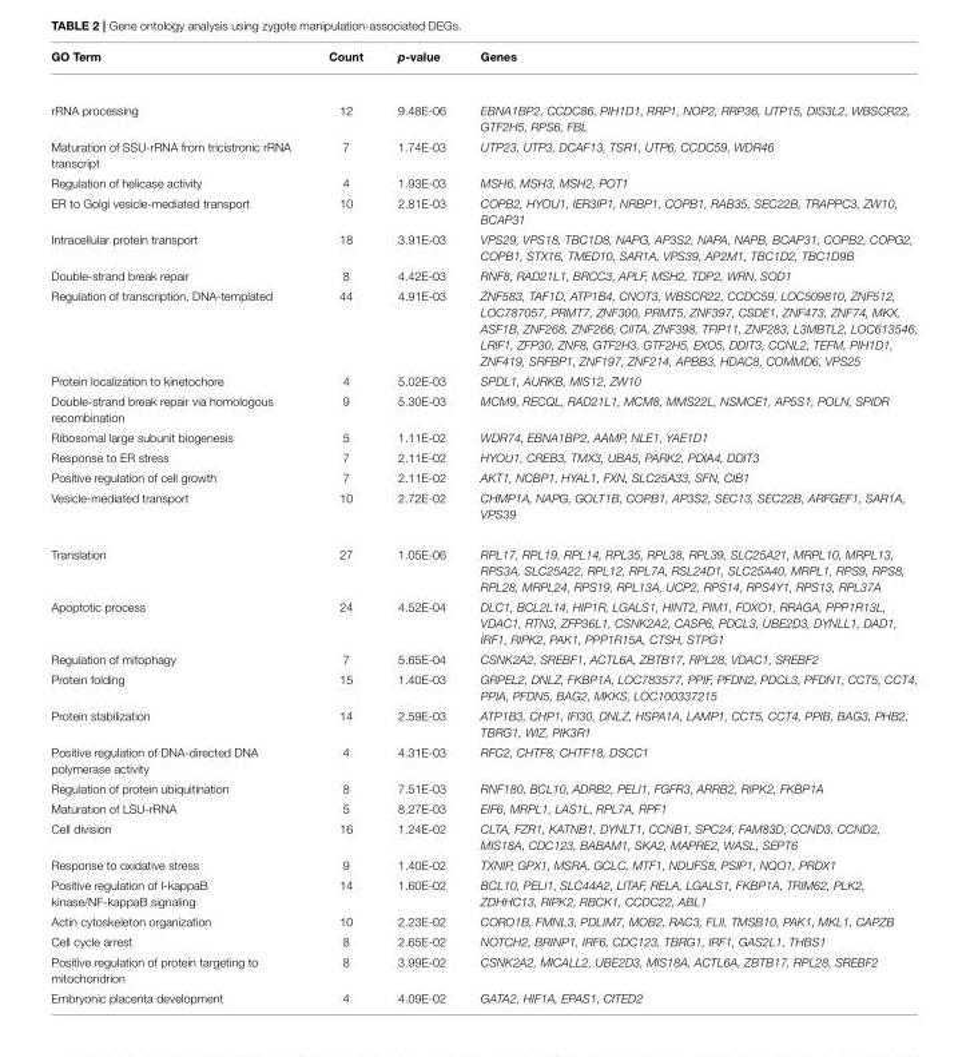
<table><thead><tr><td>GO Term</td><td>Count</td><td>p-value</td><td>Genes</td></tr></thead><tbody><tr><td>rRNA processing</td><td>12</td><td>9.48E-06</td><td>EBNA1BP2, CCDC86, PIH1D1, RRP1, NOP2, RRP36, UTP15, DIS3L2, WBSCR22, GTF2H5, RPS6, FBL</td></tr><tr><td>Maturation of SSU-rRNA from tricistronic rRNA transcript</td><td>7</td><td>1.74E-03</td><td>UTP23, UTP3, DCAF13, TSR1, UTP6, CCDC59, WDR46</td></tr><tr><td>Regulation of helicase activity</td><td>4</td><td>1.93E-03</td><td>MSH6, MSH3, MSH2, POT1</td></tr><tr><td>ER to Golgi vesicle-mediated transport</td><td>10</td><td>2.81E-03</td><td>COPB2, HYOU1, IER3IP1, NRBP1, COPB1, RAB35, SEC22B, TRAPPC3, ZW10, BCAP31</td></tr><tr><td>Intracellular protein transport</td><td>18</td><td>3.91E-03</td><td>VPS29, VPS18, TBC1D8, NAPG, AP3S2, NAPA, NAPB, BCAP31, COPB2, COPG2, COPB1, STX16, TMED10, SAR1A, VPS39, AP2M1, TBC1D2, TBC1D9B</td></tr><tr><td>Double-strand break repair</td><td>8</td><td>4.42E-03</td><td>RNF8, RAD21L1, BRCC3, APLF, MSH2, TDP2, WRN, SOD1</td></tr><tr><td>Regulation of transcription, DNA-templated</td><td>44</td><td>4.91E-03</td><td>ZNF583, TAF1D, ATP1B4, CNOT3, WBSCR22, CCDC59, LOC509810, ZNF512, LOC787057, PRMT7, ZNF300, PRMT5, ZNF397, CSDE1, ZNF473, ZNF74, MKX, ASF1B, ZNF268, ZNF266, CIITA, ZNF398, TFIP11, ZNF283, L3MBTL2, LOC613546, LRIF1, ZFP30, ZNF8, GTF2H3, GTF2H5, EXO5, DDIT3, CCNL2, TEFM, PIH1D1, ZNF419, SRFBP1, ZNF197, ZNF214, APBB3, HDAC8, COMMD6, VPS25</td></tr><tr><td>Protein localization to kinetochore</td><td>4</td><td>5.02E-03</td><td>SPDL1, AURKB, MIS12, ZW10</td></tr><tr><td>Double-strand break repair via homologous recombination</td><td>9</td><td>5.30E-03</td><td>MCM9, RECQL, RAD21L1, MCM8, MMS22L, NSMCE1, AP5S1, POLN, SPIDR</td></tr><tr><td>Ribosomal large subunit biogenesis</td><td>5</td><td>1.11E-02</td><td>WDR74, EBNA1BP2, AAMP, NLE1, YAE1D1</td></tr><tr><td>Response to ER stress</td><td>7</td><td>2.11E-02</td><td>HYOU1, CREB3, TMX3, UBA5, PARK2, PDIA4, DDIT3</td></tr><tr><td>Positive regulation of cell growth</td><td>7</td><td>2.11E-02</td><td>AKT1, NCBP1, HYAL1, FXN, SLC25A33, SFN, CIB1</td></tr><tr><td>Vesicle-mediated transport</td><td>10</td><td>2.72E-02</td><td>CHMP1A, NAPG, GOLT1B, COPB1, AP3S2, SEC13, SEC22B, ARFGEF1, SAR1A, VPS39</td></tr><tr><td>Translation</td><td>27</td><td>1.05E-06</td><td>RPL17, RPL19, RPL14, RPL35, RPL38, RPL39, SLC25A21, MRPL10, MRPL13, RPS3A, SLC25A22, RPL12, RPL7A, RSL24D1, SLC25A40, MRPL1, RPS9, RPS8, RPL28, MRPL24, RPS19, RPL13A, UCP2, RPS14, RPS4Y1, RPS13, RPL37A</td></tr><tr><td>Apoptotic process</td><td>24</td><td>4.52E-04</td><td>DLC1, BCL2L14, HIP1R, LGALS1, HINT2, PIM1, FOXO1, RRAGA, PPP1R13L, VDAC1, RTN3, ZFP36L1, CSNK2A2, CASP6, PDCL3, UBE2D3, DYNLL1, DAD1, IRF1, RIPK2, PAK1, PPP1R15A, CTSH, STPG1</td></tr><tr><td>Regulation of mitophagy</td><td>7</td><td>5.65E-04</td><td>CSNK2A2, SREBF1, ACTL6A, ZBTB17, RPL28, VDAC1, SREBF2</td></tr><tr><td>Protein folding</td><td>15</td><td>1.40E-03</td><td>GRPEL2, DNLZ, FKBP1A, LOC783577, PPIF, PFDN2, PDCL3, PFDN1, CCT5, CCT4, PPIA, PFDN5, BAG2, MKKS, LOC100337215</td></tr><tr><td>Protein stabilization</td><td>14</td><td>2.59E-03</td><td>ATP1B3, CHP1, IFI30, DNLZ, HSPA1A, LAMP1, CCT5, CCT4, PPIB, BAG3, PHB2, TBRG1, WIZ, PIK3R1</td></tr><tr><td>Positive regulation of DNA-directed DNA polymerase activity</td><td>4</td><td>4.31E-03</td><td>RFC2, CHTF8, CHTF18, DSCC1</td></tr><tr><td>Regulation of protein ubiquitination</td><td>8</td><td>7.51E-03</td><td>RNF180, BCL10, ADRB2, PELI1, FGFR3, ARRB2, RIPK2, FKBP1A</td></tr><tr><td>Maturation of LSU-rRNA</td><td>5</td><td>8.27E-03</td><td>EIF6, MRPL1, LAS1L, RPL7A, RPF1</td></tr><tr><td>Cell division</td><td>16</td><td>1.24E-02</td><td>CLTA, FZR1, KATNB1, DYNLT1, CCNB1, SPC24, FAM83D, CCND3, CCND2, MIS18A, CDC123, BABAM1, SKA2, MAPRE2, WASL, SEPT6</td></tr><tr><td>Response to oxidative stress</td><td>9</td><td>1.40E-02</td><td>TXNIP, GPX1, MSRA, GCLC, MTF1, NDUFS8, PSIP1, NQO1, PRDX1</td></tr><tr><td>Positive regulation of I-kappaB kinase/NF-kappaB signaling</td><td>14</td><td>1.60E-02</td><td>BCL10, PELI1, SLC44A2, LITAF, RELA, LGALS1, FKBP1A, TRIM62, PLK2, ZDHHC13, RIPK2, RBCK1, CCDC22, ABL1</td></tr><tr><td>Actin cytoskeleton organization</td><td>10</td><td>2.23E-02</td><td>CORO1B, FMNL3, PDLIM7, MOB2, RAC3, FLII, TMSB10, PAK1, MKL1, CAPZB</td></tr><tr><td>Cell cycle arrest</td><td>8</td><td>2.65E-02</td><td>NOTCH2, BRINP1, IRF6, CDC123, TBRG1, IRF1, GAS2L1, THBS1</td></tr><tr><td>Positive regulation of protein targeting to mitochondrion</td><td>8</td><td>3.99E-02</td><td>CSNK2A2, MICALL2, UBE2D3, MIS18A, ACTL6A, ZBTB17, RPL28, SREBF2</td></tr><tr><td>Embryonic placenta development</td><td>4</td><td>4.09E-02</td><td>GATA2, HIF1A, EPAS1, CITED2</td></tr></tbody></table>